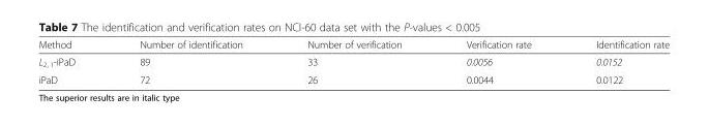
<table><thead><tr><td>Method</td><td>Number of identification</td><td>Number of verification</td><td>Verification rate</td><td>Identification rate</td></tr></thead><tbody><tr><td>L<sub>2, 1</sub>-iPaD</td><td>89</td><td>33</td><td>0.0056</td><td>0.0152</td></tr><tr><td>iPaD</td><td>72</td><td>26</td><td>0.0044</td><td>0.0122</td></tr></tbody></table>